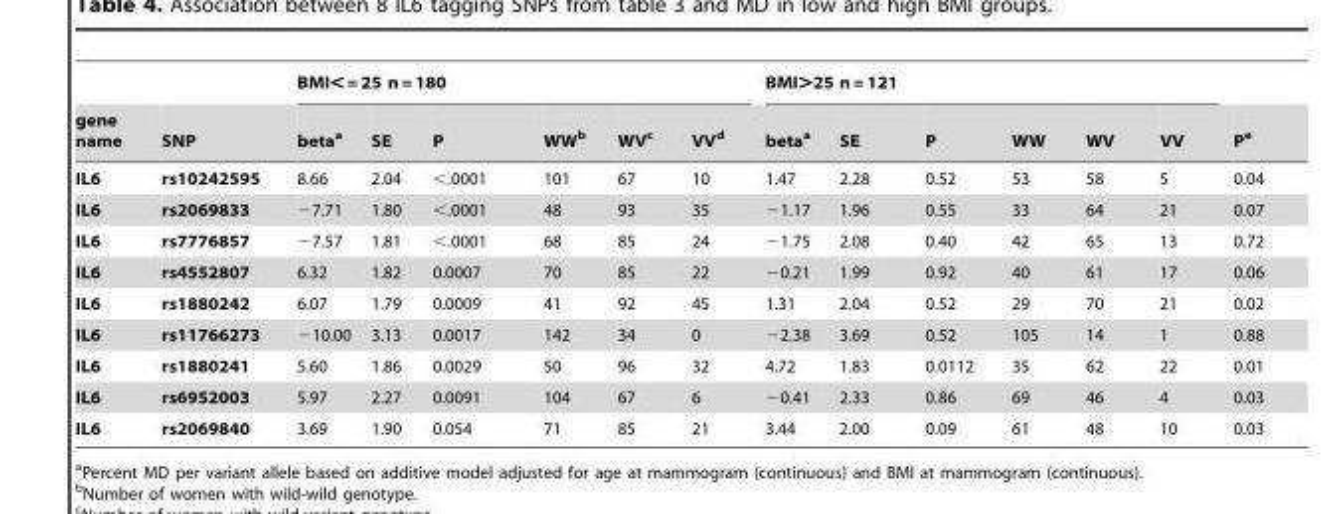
<table><thead><tr><td rowspan="2">gene name</td><td rowspan="2">SNP</td><td colspan="6">BMI&lt; = 25 n = 180</td><td colspan="6">BMI&gt;25 n = 121</td><td rowspan="2">P<sup>e</sup></td></tr><tr><td>beta<sup>a</sup></td><td>SE</td><td>P</td><td>WW<sup>b</sup></td><td>WV<sup>c</sup></td><td>VV<sup>d</sup></td><td>beta<sup>a</sup></td><td>SE</td><td>P</td><td>WW</td><td>WV</td><td>VV</td></tr></thead><tbody><tr><td>IL6</td><td>rs10242595</td><td>8.66</td><td>2.04</td><td>&lt;.0001</td><td>101</td><td>67</td><td>10</td><td>1.47</td><td>2.28</td><td>0.52</td><td>53</td><td>58</td><td>5</td><td>0.04</td></tr><tr><td>IL6</td><td>rs2069833</td><td>−7.71</td><td>1.80</td><td>&lt;.0001</td><td>48</td><td>93</td><td>35</td><td>−1.17</td><td>1.96</td><td>0.55</td><td>33</td><td>64</td><td>21</td><td>0.07</td></tr><tr><td>IL6</td><td>rs7776857</td><td>−7.57</td><td>1.81</td><td>&lt;.0001</td><td>68</td><td>85</td><td>24</td><td>−1.75</td><td>2.08</td><td>0.40</td><td>42</td><td>65</td><td>13</td><td>0.72</td></tr><tr><td>IL6</td><td>rs4552807</td><td>6.32</td><td>1.82</td><td>0.0007</td><td>70</td><td>85</td><td>22</td><td>−0.21</td><td>1.99</td><td>0.92</td><td>40</td><td>61</td><td>17</td><td>0.06</td></tr><tr><td>IL6</td><td>rs1880242</td><td>6.07</td><td>1.79</td><td>0.0009</td><td>41</td><td>92</td><td>45</td><td>1.31</td><td>2.04</td><td>0.52</td><td>29</td><td>70</td><td>21</td><td>0.02</td></tr><tr><td>IL6</td><td>rs11766273</td><td>−10.00</td><td>3.13</td><td>0.0017</td><td>142</td><td>34</td><td>0</td><td>−2.38</td><td>3.69</td><td>0.52</td><td>105</td><td>14</td><td>1</td><td>0.88</td></tr><tr><td>IL6</td><td>rs1880241</td><td>5.60</td><td>1.86</td><td>0.0029</td><td>50</td><td>96</td><td>32</td><td>4.72</td><td>1.83</td><td>0.0112</td><td>35</td><td>62</td><td>22</td><td>0.01</td></tr><tr><td>IL6</td><td>rs6952003</td><td>5.97</td><td>2.27</td><td>0.0091</td><td>104</td><td>67</td><td>6</td><td>−0.41</td><td>2.33</td><td>0.86</td><td>69</td><td>46</td><td>4</td><td>0.03</td></tr><tr><td>IL6</td><td>rs2069840</td><td>3.69</td><td>1.90</td><td>0.054</td><td>71</td><td>85</td><td>21</td><td>3.44</td><td>2.00</td><td>0.09</td><td>61</td><td>48</td><td>10</td><td>0.03</td></tr></tbody></table>